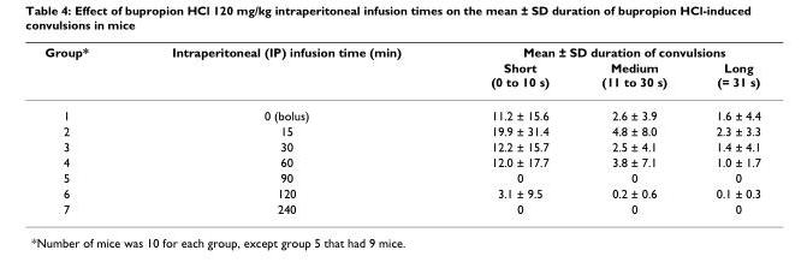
<table><thead><tr><td rowspan="2">Group*</td><td rowspan="2">Intraperitoneal (IP) infusion time (min)</td><td colspan="3">Mean ± SD duration of convulsions</td></tr><tr><td>Short (0 to 10 s)</td><td>Medium (11 to 30 s)</td><td>Long (= 31 s)</td></tr></thead><tbody><tr><td>1</td><td>0 (bolus)</td><td>11.2 ± 15.6</td><td>2.6 ± 3.9</td><td>1.6 ± 4.4</td></tr><tr><td>2</td><td>15</td><td>19.9 ± 31.4</td><td>4.8 ± 8.0</td><td>2.3 ± 3.3</td></tr><tr><td>3</td><td>30</td><td>12.2 ± 15.7</td><td>2.5 ± 4.1</td><td>1.4 ± 4.1</td></tr><tr><td>4</td><td>60</td><td>12.0 ± 17.7</td><td>3.8 ± 7.1</td><td>1.0 ± 1.7</td></tr><tr><td>5</td><td>90</td><td>0</td><td>0</td><td>0</td></tr><tr><td>6</td><td>120</td><td>3.1 ± 9.5</td><td>0.2 ± 0.6</td><td>0.1 ± 0.3</td></tr><tr><td>7</td><td>240</td><td>0</td><td>0</td><td>0</td></tr></tbody></table>